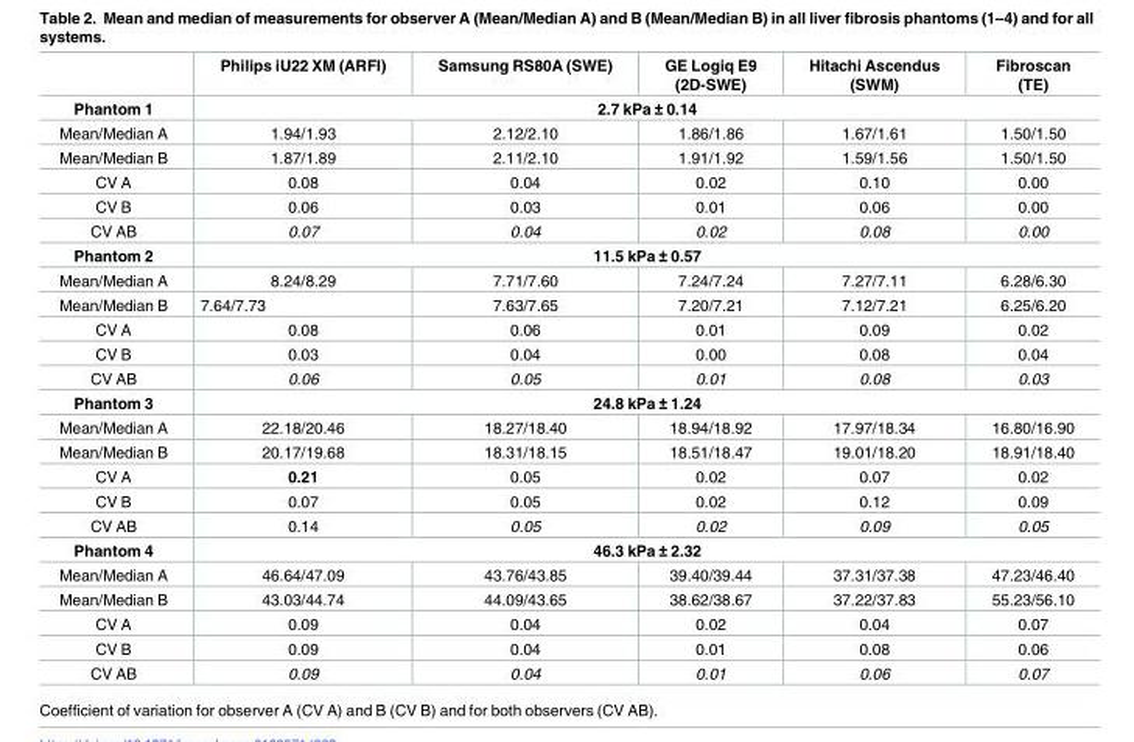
<table><thead><tr><td></td><td>Philips iU22 XM (ARFI)</td><td>Samsung RS80A (SWE)</td><td>GE Logiq E9 (2D-SWE)</td><td>Hitachi Ascendus (SWM)</td><td>Fibroscan (TE)</td></tr></thead><tbody><tr><td>Phantom 1</td><td colspan="5">2.7 kPa ± 0.14</td></tr><tr><td>Mean/Median A</td><td>1.94/1.93</td><td>2.12/2.10</td><td>1.86/1.86</td><td>1.67/1.61</td><td>1.50/1.50</td></tr><tr><td>Mean/Median B</td><td>1.87/1.89</td><td>2.11/2.10</td><td>1.91/1.92</td><td>1.59/1.56</td><td>1.50/1.50</td></tr><tr><td>CV A</td><td>0.08</td><td>0.04</td><td>0.02</td><td>0.10</td><td>0.00</td></tr><tr><td>CV B</td><td>0.06</td><td>0.03</td><td>0.01</td><td>0.06</td><td>0.00</td></tr><tr><td>CV AB</td><td>0.07</td><td>0.04</td><td>0.02</td><td>0.08</td><td>0.00</td></tr><tr><td>Phantom 2</td><td colspan="5">11.5 kPa ± 0.57</td></tr><tr><td>Mean/Median A</td><td>8.24/8.29</td><td>7.71/7.60</td><td>7.24/7.24</td><td>7.27/7.11</td><td>6.28/6.30</td></tr><tr><td>Mean/Median B</td><td>7.64/7.73</td><td>7.63/7.65</td><td>7.20/7.21</td><td>7.12/7.21</td><td>6.25/6.20</td></tr><tr><td>CV A</td><td>0.08</td><td>0.06</td><td>0.01</td><td>0.09</td><td>0.02</td></tr><tr><td>CV B</td><td>0.03</td><td>0.04</td><td>0.00</td><td>0.08</td><td>0.04</td></tr><tr><td>CV AB</td><td>0.06</td><td>0.05</td><td>0.01</td><td>0.08</td><td>0.03</td></tr><tr><td>Phantom 3</td><td colspan="5">24.8 kPa ± 1.24</td></tr><tr><td>Mean/Median A</td><td>22.18/20.46</td><td>18.27/18.40</td><td>18.94/18.92</td><td>17.97/18.34</td><td>16.80/16.90</td></tr><tr><td>Mean/Median B</td><td>20.17/19.68</td><td>18.31/18.15</td><td>18.51/18.47</td><td>19.01/18.20</td><td>18.91/18.40</td></tr><tr><td>CV A</td><td>0.21</td><td>0.05</td><td>0.02</td><td>0.07</td><td>0.02</td></tr><tr><td>CV B</td><td>0.07</td><td>0.05</td><td>0.02</td><td>0.12</td><td>0.09</td></tr><tr><td>CV AB</td><td>0.14</td><td>0.05</td><td>0.02</td><td>0.09</td><td>0.05</td></tr><tr><td>Phantom 4</td><td colspan="5">46.3 kPa ± 2.32</td></tr><tr><td>Mean/Median A</td><td>46.64/47.09</td><td>43.76/43.85</td><td>39.40/39.44</td><td>37.31/37.38</td><td>47.23/46.40</td></tr><tr><td>Mean/Median B</td><td>43.03/44.74</td><td>44.09/43.65</td><td>38.62/38.67</td><td>37.22/37.83</td><td>55.23/56.10</td></tr><tr><td>CV A</td><td>0.09</td><td>0.04</td><td>0.02</td><td>0.04</td><td>0.07</td></tr><tr><td>CV B</td><td>0.09</td><td>0.04</td><td>0.01</td><td>0.08</td><td>0.06</td></tr><tr><td>CV AB</td><td>0.09</td><td>0.04</td><td>0.01</td><td>0.06</td><td>0.07</td></tr></tbody></table>